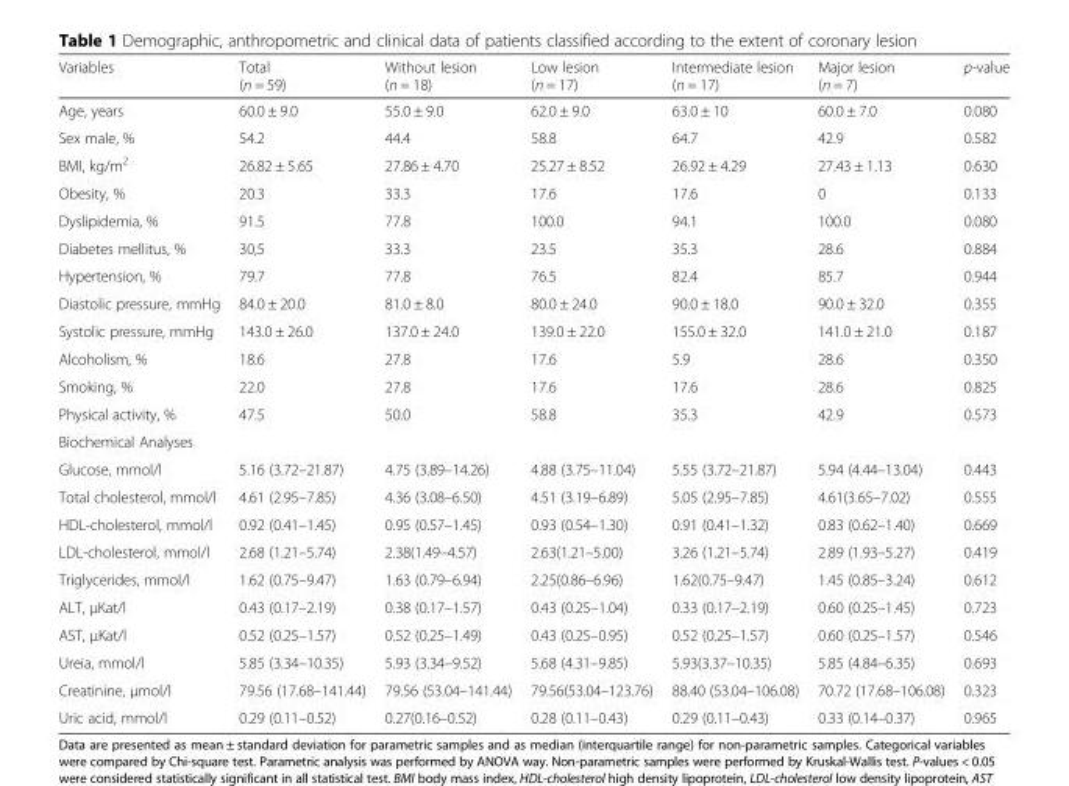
<table><thead><tr><td>Variables</td><td>Total (n = 59)</td><td>Without lesion (n = 18)</td><td>Low lesion (n = 17)</td><td>Intermediate lesion (n = 17)</td><td>Major lesion (n = 7)</td><td>p-value</td></tr></thead><tbody><tr><td>Age, years</td><td>60.0 ± 9.0</td><td>55.0 ± 9.0</td><td>62.0 ± 9.0</td><td>63.0 ± 10</td><td>60.0 ± 7.0</td><td>0.080</td></tr><tr><td>Sex male, %</td><td>54.2</td><td>44.4</td><td>58.8</td><td>64.7</td><td>42.9</td><td>0.582</td></tr><tr><td>BMI, kg/m<sup>2</sup></td><td>26.82 ± 5.65</td><td>27.86 ± 4.70</td><td>25.27 ± 8.52</td><td>26.92 ± 4.29</td><td>27.43 ± 1.13</td><td>0.630</td></tr><tr><td>Obesity, %</td><td>20.3</td><td>33.3</td><td>17.6</td><td>17.6</td><td>0</td><td>0.133</td></tr><tr><td>Dyslipidemia, %</td><td>91.5</td><td>77.8</td><td>100.0</td><td>94.1</td><td>100.0</td><td>0.080</td></tr><tr><td>Diabetes mellitus, %</td><td>30,5</td><td>33.3</td><td>23.5</td><td>35.3</td><td>28.6</td><td>0.884</td></tr><tr><td>Hypertension, %</td><td>79.7</td><td>77.8</td><td>76.5</td><td>82.4</td><td>85.7</td><td>0.944</td></tr><tr><td>Diastolic pressure, mmHg</td><td>84.0 ± 20.0</td><td>81.0 ± 8.0</td><td>80.0 ± 24.0</td><td>90.0 ± 18.0</td><td>90.0 ± 32.0</td><td>0.355</td></tr><tr><td>Systolic pressure, mmHg</td><td>143.0 ± 26.0</td><td>137.0 ± 24.0</td><td>139.0 ± 22.0</td><td>155.0 ± 32.0</td><td>141.0 ± 21.0</td><td>0.187</td></tr><tr><td>Alcoholism, %</td><td>18.6</td><td>27.8</td><td>17.6</td><td>5.9</td><td>28.6</td><td>0.350</td></tr><tr><td>Smoking, %</td><td>22.0</td><td>27.8</td><td>17.6</td><td>17.6</td><td>28.6</td><td>0.825</td></tr><tr><td>Physical activity, %</td><td>47.5</td><td>50.0</td><td>58.8</td><td>35.3</td><td>42.9</td><td>0.573</td></tr><tr><td colspan="7">Biochemical Analyses</td></tr><tr><td>Glucose, mmol/l</td><td>5.16 (3.72–21.87)</td><td>4.75 (3.89–14.26)</td><td>4.88 (3.75–11.04)</td><td>5.55 (3.72–21.87)</td><td>5.94 (4.44–13.04)</td><td>0.443</td></tr><tr><td>Total cholesterol, mmol/l</td><td>4.61 (2.95–7.85)</td><td>4.36 (3.08–6.50)</td><td>4.51 (3.19–6.89)</td><td>5.05 (2.95–7.85)</td><td>4.61(3.65–7.02)</td><td>0.555</td></tr><tr><td>HDL-cholesterol, mmol/l</td><td>0.92 (0.41–1.45)</td><td>0.95 (0.57–1.45)</td><td>0.93 (0.54–1.30)</td><td>0.91 (0.41–1.32)</td><td>0.83 (0.62–1.40)</td><td>0.669</td></tr><tr><td>LDL-cholesterol, mmol/l</td><td>2.68 (1.21–5.74)</td><td>2.38(1.49–4.57)</td><td>2.63(1.21–5.00)</td><td>3.26 (1.21–5.74)</td><td>2.89 (1.93–5.27)</td><td>0.419</td></tr><tr><td>Triglycerides, mmol/l</td><td>1.62 (0.75–9.47)</td><td>1.63 (0.79–6.94)</td><td>2.25(0.86–6.96)</td><td>1.62(0.75–9.47)</td><td>1.45 (0.85–3.24)</td><td>0.612</td></tr><tr><td>ALT, μKat/l</td><td>0.43 (0.17–2.19)</td><td>0.38 (0.17–1.57)</td><td>0.43 (0.25–1.04)</td><td>0.33 (0.17–2.19)</td><td>0.60 (0.25–1.45)</td><td>0.723</td></tr><tr><td>AST, μKat/l</td><td>0.52 (0.25–1.57)</td><td>0.52 (0.25–1.49)</td><td>0.43 (0.25–0.95)</td><td>0.52 (0.25–1.57)</td><td>0.60 (0.25–1.57)</td><td>0.546</td></tr><tr><td>Ureia, mmol/l</td><td>5.85 (3.34–10.35)</td><td>5.93 (3.34–9.52)</td><td>5.68 (4.31–9.85)</td><td>5.93(3.37–10.35)</td><td>5.85 (4.84–6.35)</td><td>0.693</td></tr><tr><td>Creatinine, μmol/l</td><td>79.56 (17.68–141.44)</td><td>79.56 (53.04–141.44)</td><td>79.56(53.04–123.76)</td><td>88.40 (53.04–106.08)</td><td>70.72 (17.68–106.08)</td><td>0.323</td></tr><tr><td>Uric acid, mmol/l</td><td>0.29 (0.11–0.52)</td><td>0.27(0.16–0.52)</td><td>0.28 (0.11–0.43)</td><td>0.29 (0.11–0.43)</td><td>0.33 (0.14–0.37)</td><td>0.965</td></tr></tbody></table>